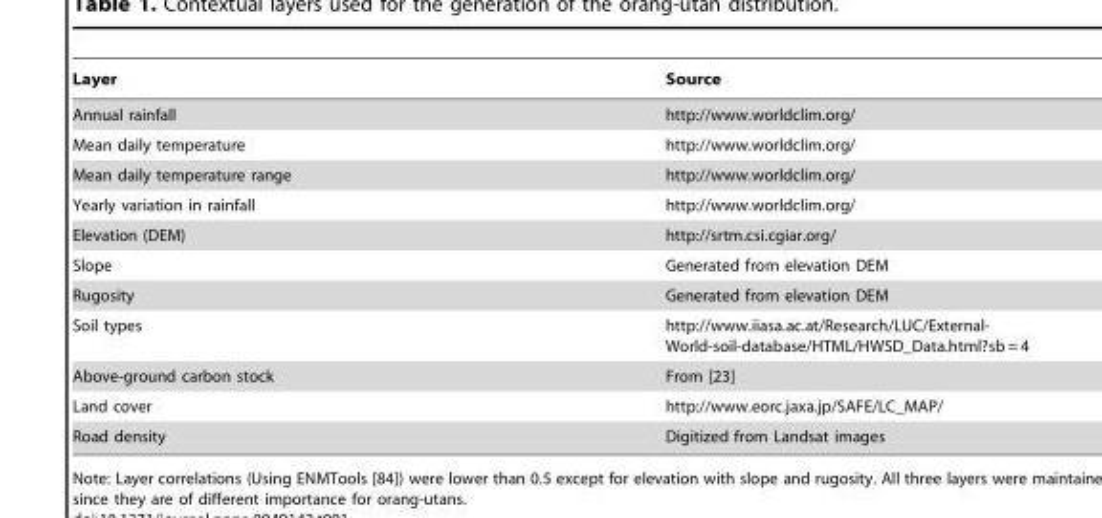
<table><thead><tr><td>Layer</td><td>Source</td></tr></thead><tbody><tr><td>Annual rainfall</td><td>http://www.worldclim.org/</td></tr><tr><td>Mean daily temperature</td><td>http://www.worldclim.org/</td></tr><tr><td>Mean daily temperature range</td><td>http://www.worldclim.org/</td></tr><tr><td>Yearly variation in rainfall</td><td>http://www.worldclim.org/</td></tr><tr><td>Elevation (DEM)</td><td>http://srtm.csi.cgiar.org/</td></tr><tr><td>Slope</td><td>Generated from elevation DEM</td></tr><tr><td>Rugosity</td><td>Generated from elevation DEM</td></tr><tr><td>Soil types</td><td>http://www.iiasa.ac.at/Research/LUC/External- World-soil-database/HTML/HWSD_Data.html?sb = 4</td></tr><tr><td>Above-ground carbon stock</td><td>From [23]</td></tr><tr><td>Land cover</td><td>http://www.eorc.jaxa.jp/SAFE/LC_MAP/</td></tr><tr><td>Road density</td><td>Digitized from Landsat images</td></tr></tbody></table>